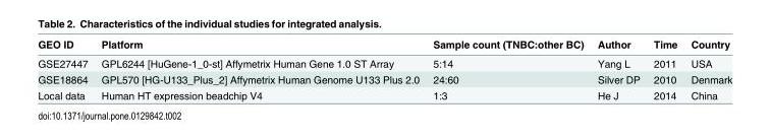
<table><thead><tr><td>GEO ID</td><td>Platform</td><td>Sample count (TNBC:other BC)</td><td>Author</td><td>Time</td><td>Country</td></tr></thead><tbody><tr><td>GSE27447</td><td>GPL6244 [HuGene-1_0-st] Affymetrix Human Gene 1.0 ST Array</td><td>5:14</td><td>Yang L</td><td>2011</td><td>USA</td></tr><tr><td>GSE18864</td><td>GPL570 [HG-U133_Plus_2] Affymetrix Human Genome U133 Plus 2.0</td><td>24:60</td><td>Silver DP</td><td>2010</td><td>Denmark</td></tr><tr><td>Local data</td><td>Human HT expression beadchip V4</td><td>1:3</td><td>He J</td><td>2014</td><td>China</td></tr></tbody></table>